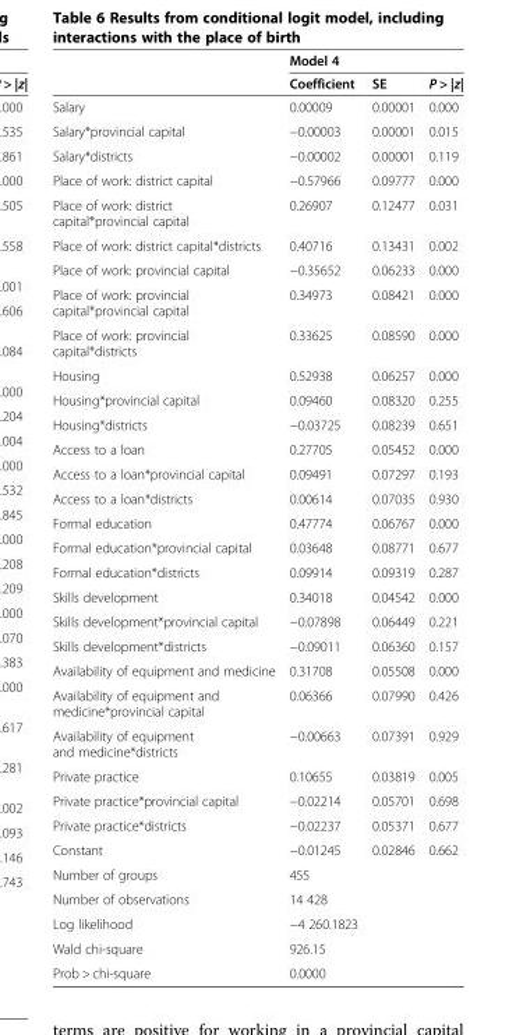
<table><thead><tr><td rowspan="2"></td><td colspan="3">Model 4</td></tr><tr><td>Coefficient</td><td>SE</td><td>P &gt; |z|</td></tr></thead><tbody><tr><td>Salary</td><td>0.00009</td><td>0.00001</td><td>0.000</td></tr><tr><td>Salary*provincial capital</td><td>−0.00003</td><td>0.00001</td><td>0.015</td></tr><tr><td>Salary*districts</td><td>−0.00002</td><td>0.00001</td><td>0.119</td></tr><tr><td>Place of work: district capital</td><td>−0.57966</td><td>0.09777</td><td>0.000</td></tr><tr><td>Place of work: district capital*provincial capital</td><td>0.26907</td><td>0.12477</td><td>0.031</td></tr><tr><td>Place of work: district capital*districts</td><td>0.40716</td><td>0.13431</td><td>0.002</td></tr><tr><td>Place of work: provincial capital</td><td>−0.35652</td><td>0.06233</td><td>0.000</td></tr><tr><td>Place of work: provincial capital*provincial capital</td><td>0.34973</td><td>0.08421</td><td>0.000</td></tr><tr><td>Place of work: provincial capital*districts</td><td>0.33625</td><td>0.08590</td><td>0.000</td></tr><tr><td>Housing</td><td>0.52938</td><td>0.06257</td><td>0.000</td></tr><tr><td>Housing*provincial capital</td><td>0.09460</td><td>0.08320</td><td>0.255</td></tr><tr><td>Housing*districts</td><td>−0.03725</td><td>0.08239</td><td>0.651</td></tr><tr><td>Access to a loan</td><td>0.27705</td><td>0.05452</td><td>0.000</td></tr><tr><td>Access to a loan*provincial capital</td><td>0.09491</td><td>0.07297</td><td>0.193</td></tr><tr><td>Access to a loan*districts</td><td>0.00614</td><td>0.07035</td><td>0.930</td></tr><tr><td>Formal education</td><td>0.47774</td><td>0.06767</td><td>0.000</td></tr><tr><td>Formal education*provincial capital</td><td>0.03648</td><td>0.08771</td><td>0.677</td></tr><tr><td>Formal education*districts</td><td>0.09914</td><td>0.09319</td><td>0.287</td></tr><tr><td>Skills development</td><td>0.34018</td><td>0.04542</td><td>0.000</td></tr><tr><td>Skills development*provincial capital</td><td>−0.07898</td><td>0.06449</td><td>0.221</td></tr><tr><td>Skills development*districts</td><td>−0.09011</td><td>0.06360</td><td>0.157</td></tr><tr><td>Availability of equipment and medicine</td><td>0.31708</td><td>0.05508</td><td>0.000</td></tr><tr><td>Availability of equipment and medicine*provincial capital</td><td>0.06366</td><td>0.07990</td><td>0.426</td></tr><tr><td>Availability of equipment and medicine*districts</td><td>−0.00663</td><td>0.07391</td><td>0.929</td></tr><tr><td>Private practice</td><td>0.10655</td><td>0.03819</td><td>0.005</td></tr><tr><td>Private practice*provincial capital</td><td>−0.02214</td><td>0.05701</td><td>0.698</td></tr><tr><td>Private practice*districts</td><td>−0.02237</td><td>0.05371</td><td>0.677</td></tr><tr><td>Constant</td><td>−0.01245</td><td>0.02846</td><td>0.662</td></tr><tr><td>Number of groups</td><td>455</td><td></td><td></td></tr><tr><td>Number of observations</td><td>14 428</td><td></td><td></td></tr><tr><td>Log likelihood</td><td>−4 260.1823</td><td></td><td></td></tr><tr><td>Wald chi-square</td><td>926.15</td><td></td><td></td></tr><tr><td>Prob &gt; chi-square</td><td>0.0000</td><td></td><td></td></tr></tbody></table>